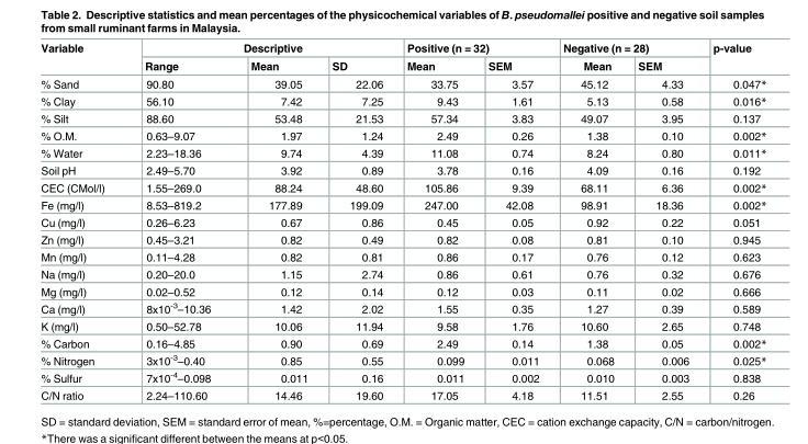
<table><thead><tr><td rowspan="2">Variable</td><td colspan="3">Descriptive</td><td colspan="2">Positive (n = 32)</td><td colspan="2">Negative (n = 28)</td><td rowspan="2">p-value</td></tr><tr><td>Range</td><td>Mean</td><td>SD</td><td>Mean</td><td>SEM</td><td>Mean</td><td>SEM</td></tr></thead><tbody><tr><td>% Sand</td><td>90.80</td><td>39.05</td><td>22.06</td><td>33.75</td><td>3.57</td><td>45.12</td><td>4.33</td><td>0.047*</td></tr><tr><td>% Clay</td><td>56.10</td><td>7.42</td><td>7.25</td><td>9.43</td><td>1.61</td><td>5.13</td><td>0.58</td><td>0.016*</td></tr><tr><td>% Silt</td><td>88.60</td><td>53.48</td><td>21.53</td><td>57.34</td><td>3.83</td><td>49.07</td><td>3.95</td><td>0.137</td></tr><tr><td>% O.M.</td><td>0.63–9.07</td><td>1.97</td><td>1.24</td><td>2.49</td><td>0.26</td><td>1.38</td><td>0.10</td><td>0.002*</td></tr><tr><td>% Water</td><td>2.23–18.36</td><td>9.74</td><td>4.39</td><td>11.08</td><td>0.74</td><td>8.24</td><td>0.80</td><td>0.011*</td></tr><tr><td>Soil pH</td><td>2.49–5.70</td><td>3.92</td><td>0.89</td><td>3.78</td><td>0.16</td><td>4.09</td><td>0.16</td><td>0.192</td></tr><tr><td>CEC (CMol/l)</td><td>1.55–269.0</td><td>88.24</td><td>48.60</td><td>105.86</td><td>9.39</td><td>68.11</td><td>6.36</td><td>0.002*</td></tr><tr><td>Fe (mg/l)</td><td>8.53–819.2</td><td>177.89</td><td>199.09</td><td>247.00</td><td>42.08</td><td>98.91</td><td>18.36</td><td>0.002*</td></tr><tr><td>Cu (mg/l)</td><td>0.26–6.23</td><td>0.67</td><td>0.86</td><td>0.45</td><td>0.05</td><td>0.92</td><td>0.22</td><td>0.051</td></tr><tr><td>Zn (mg/l)</td><td>0.45–3.21</td><td>0.82</td><td>0.49</td><td>0.82</td><td>0.08</td><td>0.81</td><td>0.10</td><td>0.945</td></tr><tr><td>Mn (mg/l)</td><td>0.11–4.28</td><td>0.82</td><td>0.81</td><td>0.86</td><td>0.17</td><td>0.76</td><td>0.12</td><td>0.623</td></tr><tr><td>Na (mg/l)</td><td>0.20–20.0</td><td>1.15</td><td>2.74</td><td>0.86</td><td>0.61</td><td>0.76</td><td>0.32</td><td>0.676</td></tr><tr><td>Mg (mg/l)</td><td>0.02–0.52</td><td>0.12</td><td>0.14</td><td>0.12</td><td>0.03</td><td>0.11</td><td>0.02</td><td>0.666</td></tr><tr><td>Ca (mg/l)</td><td>8x10<sup>-3</sup>–10.36</td><td>1.42</td><td>2.02</td><td>1.55</td><td>0.35</td><td>1.27</td><td>0.39</td><td>0.589</td></tr><tr><td>K (mg/l)</td><td>0.50–52.78</td><td>10.06</td><td>11.94</td><td>9.58</td><td>1.76</td><td>10.60</td><td>2.65</td><td>0.748</td></tr><tr><td>% Carbon</td><td>0.16–4.85</td><td>0.90</td><td>0.69</td><td>2.49</td><td>0.14</td><td>1.38</td><td>0.05</td><td>0.002*</td></tr><tr><td>% Nitrogen</td><td>3x10<sup>-3</sup>–0.40</td><td>0.85</td><td>0.55</td><td>0.099</td><td>0.011</td><td>0.068</td><td>0.006</td><td>0.025*</td></tr><tr><td>% Sulfur</td><td>7x10<sup>-4</sup>–0.098</td><td>0.011</td><td>0.16</td><td>0.011</td><td>0.002</td><td>0.010</td><td>0.003</td><td>0.838</td></tr><tr><td>C/N ratio</td><td>2.24–110.60</td><td>14.46</td><td>19.60</td><td>17.05</td><td>4.18</td><td>11.51</td><td>2.55</td><td>0.26</td></tr></tbody></table>